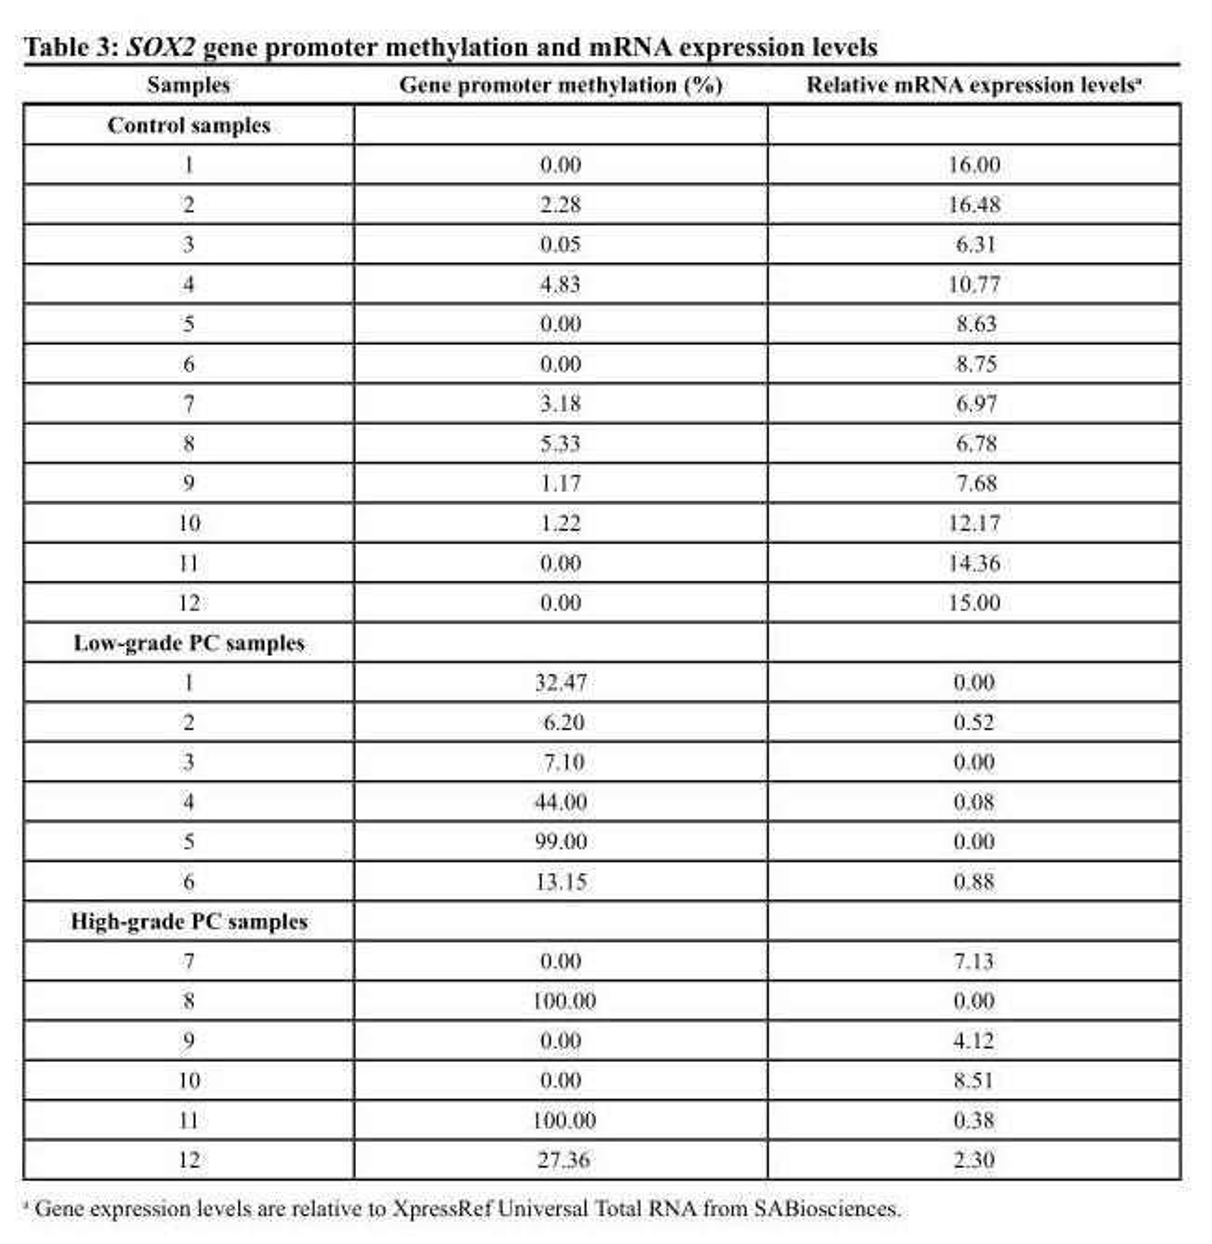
<table><thead><tr><td>Samples</td><td>Gene promoter methylation (%)</td><td>Relative mRNA expression levels<sup>a</sup></td></tr></thead><tbody><tr><td colspan="3">Control samples</td></tr><tr><td>1</td><td>0.00</td><td>16.00</td></tr><tr><td>2</td><td>2.28</td><td>16.48</td></tr><tr><td>3</td><td>0.05</td><td>6.31</td></tr><tr><td>4</td><td>4.83</td><td>10.77</td></tr><tr><td>5</td><td>0.00</td><td>8.63</td></tr><tr><td>6</td><td>0.00</td><td>8.75</td></tr><tr><td>7</td><td>3.18</td><td>6.97</td></tr><tr><td>8</td><td>5.33</td><td>6.78</td></tr><tr><td>9</td><td>1.17</td><td>7.68</td></tr><tr><td>10</td><td>1.22</td><td>12.17</td></tr><tr><td>11</td><td>0.00</td><td>14.36</td></tr><tr><td>12</td><td>0.00</td><td>15.00</td></tr><tr><td colspan="3">Low-grade PC samples</td></tr><tr><td>1</td><td>32.47</td><td>0.00</td></tr><tr><td>2</td><td>6.20</td><td>0.52</td></tr><tr><td>3</td><td>7.10</td><td>0.00</td></tr><tr><td>4</td><td>44.00</td><td>0.08</td></tr><tr><td>5</td><td>99.00</td><td>0.00</td></tr><tr><td>6</td><td>13.15</td><td>0.88</td></tr><tr><td colspan="3">High-grade PC samples</td></tr><tr><td>7</td><td>0.00</td><td>7.13</td></tr><tr><td>8</td><td>100.00</td><td>0.00</td></tr><tr><td>9</td><td>0.00</td><td>4.12</td></tr><tr><td>10</td><td>0.00</td><td>8.51</td></tr><tr><td>11</td><td>100.00</td><td>0.38</td></tr><tr><td>12</td><td>27.36</td><td>2.30</td></tr></tbody></table>